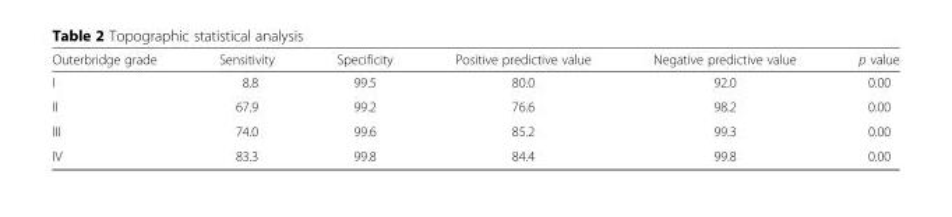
<table><thead><tr><td>Outerbridge grade</td><td>Sensitivity</td><td>Specificity</td><td>Positive predictive value</td><td>Negative predictive value</td><td>p value</td></tr></thead><tbody><tr><td>I</td><td>8.8</td><td>99.5</td><td>80.0</td><td>92.0</td><td>0.00</td></tr><tr><td>II</td><td>67.9</td><td>99.2</td><td>76.6</td><td>98.2</td><td>0.00</td></tr><tr><td>III</td><td>74.0</td><td>99.6</td><td>85.2</td><td>99.3</td><td>0.00</td></tr><tr><td>IV</td><td>83.3</td><td>99.8</td><td>84.4</td><td>99.8</td><td>0.00</td></tr></tbody></table>